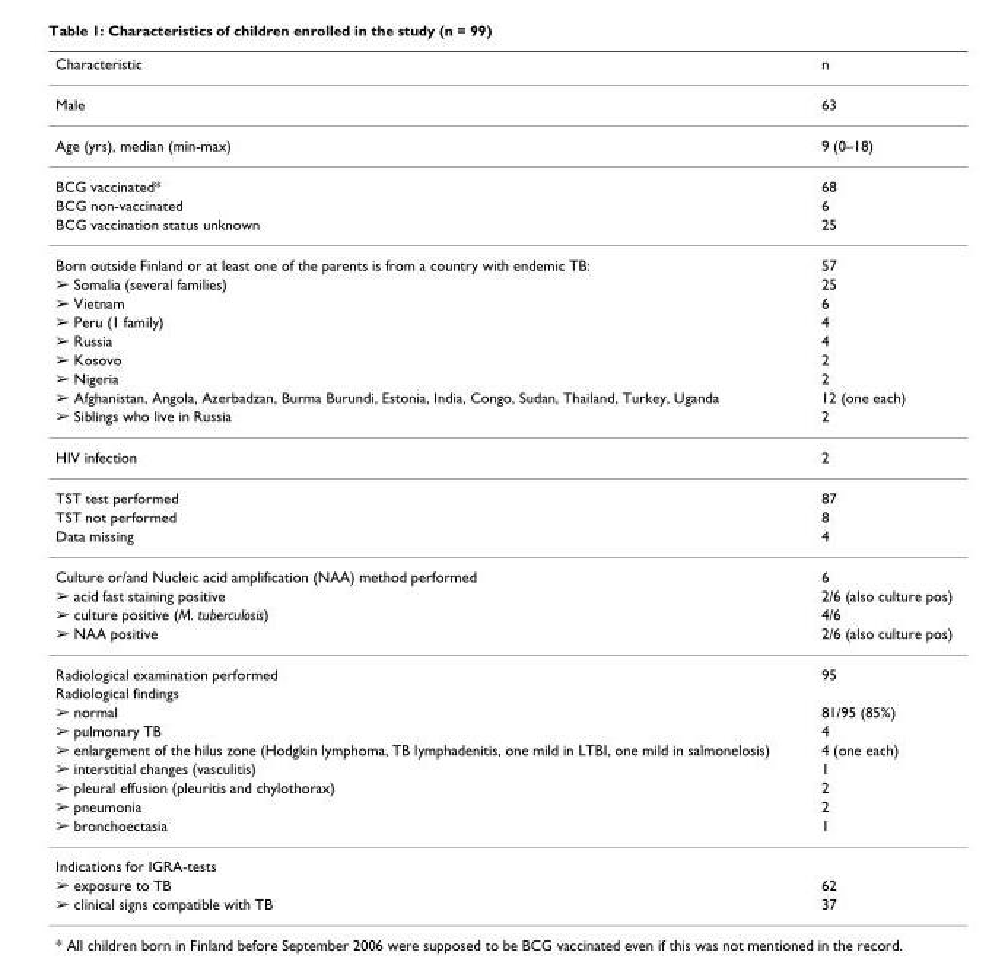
<table><thead><tr><td>Characteristic</td><td>n</td></tr></thead><tbody><tr><td>Male</td><td>63</td></tr><tr><td>Age (yrs), median (min-max)</td><td>9 (0–18)</td></tr><tr><td>BCG vaccinated*</td><td>68</td></tr><tr><td>BCG non-vaccinated</td><td>6</td></tr><tr><td>BCG vaccination status unknown</td><td>25</td></tr><tr><td>Born outside Finland or at least one of the parents is from a country with endemic TB:</td><td>57</td></tr><tr><td>➢ Somalia (several families)</td><td>25</td></tr><tr><td>➢ Vietnam</td><td>6</td></tr><tr><td>➢ Peru (1 family)</td><td>4</td></tr><tr><td>➢ Russia</td><td>4</td></tr><tr><td>➢ Kosovo</td><td>2</td></tr><tr><td>➢ Nigeria</td><td>2</td></tr><tr><td>➢ Afghanistan, Angola, Azerbadzan, Burma Burundi, Estonia, India, Congo, Sudan, Thailand, Turkey, Uganda</td><td>12 (one each)</td></tr><tr><td>➢ Siblings who live in Russia</td><td>2</td></tr><tr><td>HIV infection</td><td>2</td></tr><tr><td>TST test performed</td><td>87</td></tr><tr><td>TST not performed</td><td>8</td></tr><tr><td>Data missing</td><td>4</td></tr><tr><td>Culture or/and Nucleic acid amplification (NAA) method performed</td><td>6</td></tr><tr><td>➢ acid fast staining positive</td><td>2/6 (also culture pos)</td></tr><tr><td>➢ culture positive (M. tuberculosis)</td><td>4/6</td></tr><tr><td>➢ NAA positive</td><td>2/6 (also culture pos)</td></tr><tr><td>Radiological examination performed</td><td>95</td></tr><tr><td colspan="2">Radiological findings</td></tr><tr><td>➢ normal</td><td>81/95 (85%)</td></tr><tr><td>➢ pulmonary TB</td><td>4</td></tr><tr><td>➢ enlargement of the hilus zone (Hodgkin lymphoma, TB lymphadenitis, one mild in LTBI, one mild in salmonelosis)</td><td>4 (one each)</td></tr><tr><td>➢ interstitial changes (vasculitis)</td><td>1</td></tr><tr><td>➢ pleural effusion (pleuritis and chylothorax)</td><td>2</td></tr><tr><td>➢ pneumonia</td><td>2</td></tr><tr><td>➢ bronchoectasia</td><td>1</td></tr><tr><td colspan="2">Indications for IGRA-tests</td></tr><tr><td>➢ exposure to TB</td><td>62</td></tr><tr><td>➢ clinical signs compatible with TB</td><td>37</td></tr></tbody></table>